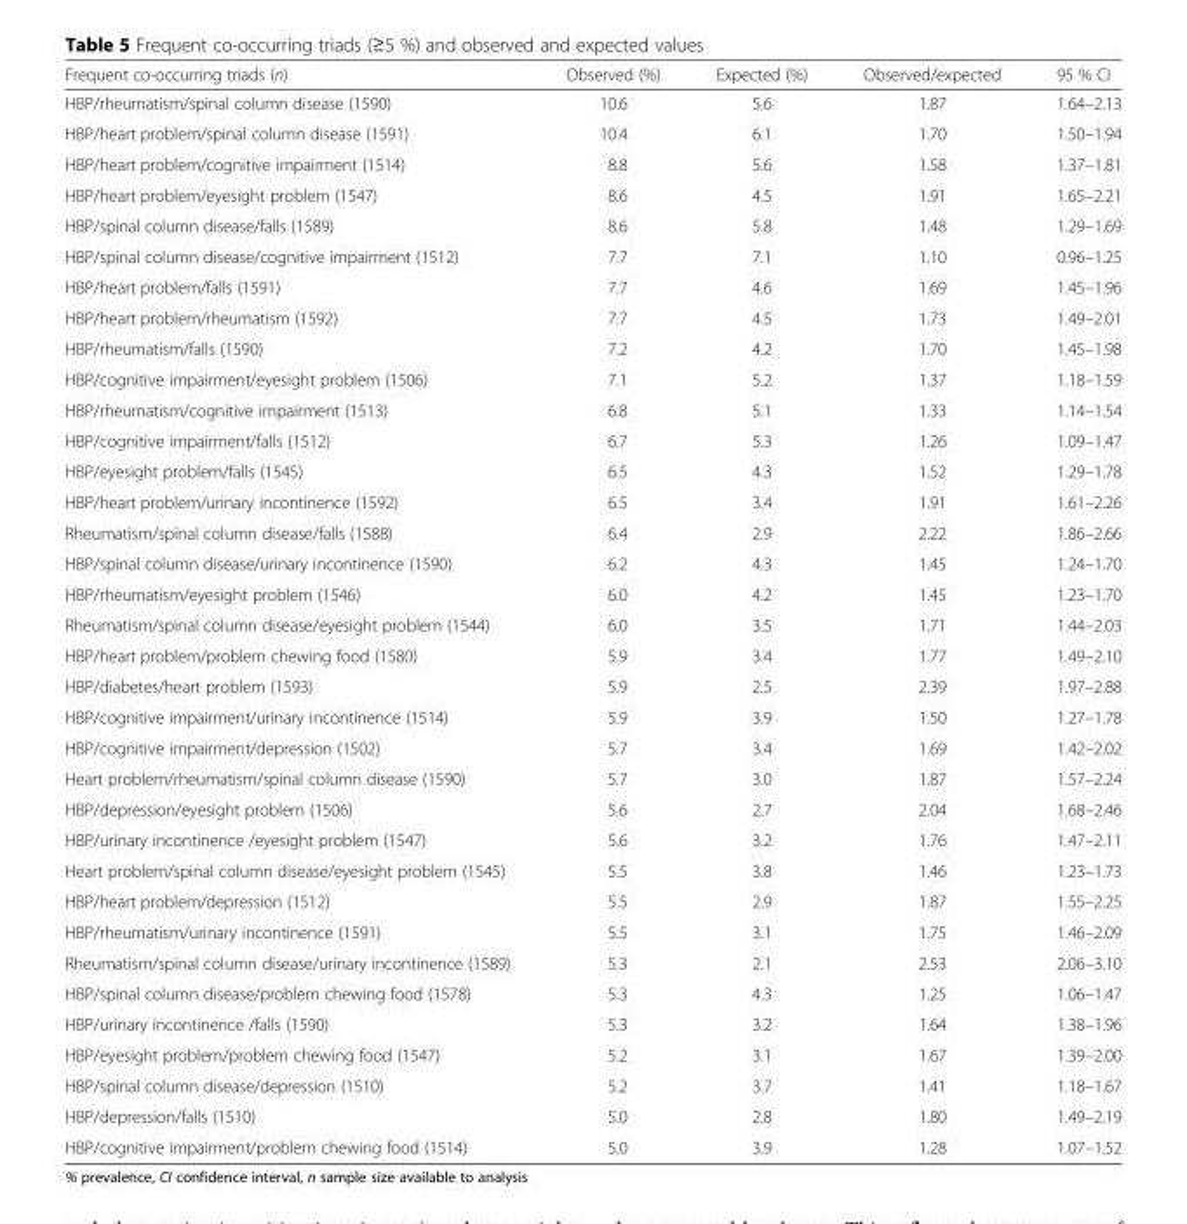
<table><thead><tr><td>Frequent co-occurring triads (n)</td><td>Observed (%)</td><td>Expected (%)</td><td>Observed/expected</td><td>95 % CI</td></tr></thead><tbody><tr><td>HBP/rheumatism/spinal column disease (1590)</td><td>10.6</td><td>5.6</td><td>1.87</td><td>1.64–2.13</td></tr><tr><td>HBP/heart problem/spinal column disease (1591)</td><td>10.4</td><td>6.1</td><td>1.70</td><td>1.50–1.94</td></tr><tr><td>HBP/heart problem/cognitive impairment (1514)</td><td>8.8</td><td>5.6</td><td>1.58</td><td>1.37–1.81</td></tr><tr><td>HBP/heart problem/eyesight problem (1547)</td><td>8.6</td><td>4.5</td><td>1.91</td><td>1.65–2.21</td></tr><tr><td>HBP/spinal column disease/falls (1589)</td><td>8.6</td><td>5.8</td><td>1.48</td><td>1.29–1.69</td></tr><tr><td>HBP/spinal column disease/cognitive impairment (1512)</td><td>7.7</td><td>7.1</td><td>1.10</td><td>0.96–1.25</td></tr><tr><td>HBP/heart problem/falls (1591)</td><td>7.7</td><td>4.6</td><td>1.69</td><td>1.45–1.96</td></tr><tr><td>HBP/heart problem/rheumatism (1592)</td><td>7.7</td><td>4.5</td><td>1.73</td><td>1.49–2.01</td></tr><tr><td>HBP/rheumatism/falls (1590)</td><td>7.2</td><td>4.2</td><td>1.70</td><td>1.45–1.98</td></tr><tr><td>HBP/cognitive impairment/eyesight problem (1506)</td><td>7.1</td><td>5.2</td><td>1.37</td><td>1.18–1.59</td></tr><tr><td>HBP/rheumatism/cognitive impairment (1513)</td><td>6.8</td><td>5.1</td><td>1.33</td><td>1.14–1.54</td></tr><tr><td>HBP/cognitive impairment/falls (1512)</td><td>6.7</td><td>5.3</td><td>1.26</td><td>1.09–1.47</td></tr><tr><td>HBP/eyesight problem/falls (1545)</td><td>6.5</td><td>4.3</td><td>1.52</td><td>1.29–1.78</td></tr><tr><td>HBP/heart problem/urinary incontinence (1592)</td><td>6.5</td><td>3.4</td><td>1.91</td><td>1.61–2.26</td></tr><tr><td>Rheumatism/spinal column disease/falls (1588)</td><td>6.4</td><td>2.9</td><td>2.22</td><td>1.86–2.66</td></tr><tr><td>HBP/spinal column disease/urinary incontinence (1590)</td><td>6.2</td><td>4.3</td><td>1.45</td><td>1.24–1.70</td></tr><tr><td>HBP/rheumatism/eyesight problem (1546)</td><td>6.0</td><td>4.2</td><td>1.45</td><td>1.23–1.70</td></tr><tr><td>Rheumatism/spinal column disease/eyesight problem (1544)</td><td>6.0</td><td>3.5</td><td>1.71</td><td>1.44–2.03</td></tr><tr><td>HBP/heart problem/problem chewing food (1580)</td><td>5.9</td><td>3.4</td><td>1.77</td><td>1.49–2.10</td></tr><tr><td>HBP/diabetes/heart problem (1593)</td><td>5.9</td><td>2.5</td><td>2.39</td><td>1.97–2.88</td></tr><tr><td>HBP/cognitive impairment/urinary incontinence (1514)</td><td>5.9</td><td>3.9</td><td>1.50</td><td>1.27–1.78</td></tr><tr><td>HBP/cognitive impairment/depression (1502)</td><td>5.7</td><td>3.4</td><td>1.69</td><td>1.42–2.02</td></tr><tr><td>Heart problem/rheumatism/spinal column disease (1590)</td><td>5.7</td><td>3.0</td><td>1.87</td><td>1.57–2.24</td></tr><tr><td>HBP/depression/eyesight problem (1506)</td><td>5.6</td><td>2.7</td><td>2.04</td><td>1.68–2.46</td></tr><tr><td>HBP/urinary incontinence /eyesight problem (1547)</td><td>5.6</td><td>3.2</td><td>1.76</td><td>1.47–2.11</td></tr><tr><td>Heart problem/spinal column disease/eyesight problem (1545)</td><td>5.5</td><td>3.8</td><td>1.46</td><td>1.23–1.73</td></tr><tr><td>HBP/heart problem/depression (1512)</td><td>5.5</td><td>2.9</td><td>1.87</td><td>1.55–2.25</td></tr><tr><td>HBP/rheumatism/urinary incontinence (1591)</td><td>5.5</td><td>3.1</td><td>1.75</td><td>1.46–2.09</td></tr><tr><td>Rheumatism/spinal column disease/urinary incontinence (1589)</td><td>5.3</td><td>2.1</td><td>2.53</td><td>2.06–3.10</td></tr><tr><td>HBP/spinal column disease/problem chewing food (1578)</td><td>5.3</td><td>4.3</td><td>1.25</td><td>1.06–1.47</td></tr><tr><td>HBP/urinary incontinence /falls (1590)</td><td>5.3</td><td>3.2</td><td>1.64</td><td>1.38–1.96</td></tr><tr><td>HBP/eyesight problem/problem chewing food (1547)</td><td>5.2</td><td>3.1</td><td>1.67</td><td>1.39–2.00</td></tr><tr><td>HBP/spinal column disease/depression (1510)</td><td>5.2</td><td>3.7</td><td>1.41</td><td>1.18–1.67</td></tr><tr><td>HBP/depression/falls (1510)</td><td>5.0</td><td>2.8</td><td>1.80</td><td>1.49–2.19</td></tr><tr><td>HBP/cognitive impairment/problem chewing food (1514)</td><td>5.0</td><td>3.9</td><td>1.28</td><td>1.07–1.52</td></tr></tbody></table>